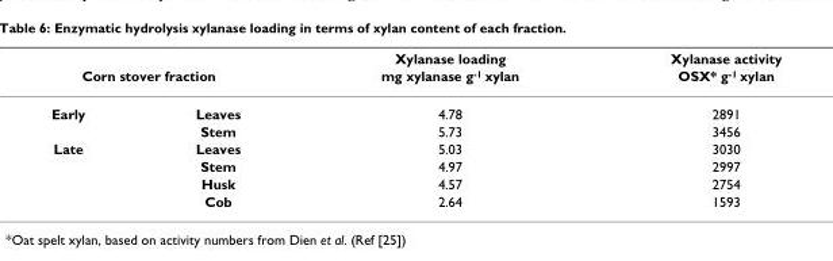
<table><thead><tr><td></td><td></td><td rowspan="2">Xylanase loading mg xylanase g<sup>-1</sup> xylan</td><td rowspan="2">Xylanase activity OSX* g<sup>-1</sup> xylan</td></tr><tr><td colspan="2">Corn stover fraction</td></tr></thead><tbody><tr><td rowspan="2">Early</td><td>Leaves</td><td>4.78</td><td>2891</td></tr><tr><td>Stem</td><td>5.73</td><td>3456</td></tr><tr><td rowspan="4">Late</td><td>Leaves</td><td>5.03</td><td>3030</td></tr><tr><td>Stem</td><td>4.97</td><td>2997</td></tr><tr><td>Husk</td><td>4.57</td><td>2754</td></tr><tr><td>Cob</td><td>2.64</td><td>1593</td></tr></tbody></table>